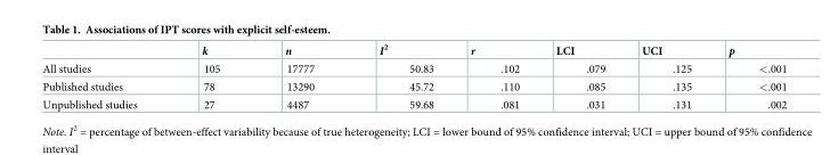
<table><thead><tr><td></td><td>k</td><td>n</td><td>I<sup>2</sup></td><td>r</td><td>LCI</td><td>UCI</td><td>p</td></tr></thead><tbody><tr><td>All studies</td><td>105</td><td>17777</td><td>50.83</td><td>.102</td><td>.079</td><td>.125</td><td>&lt;.001</td></tr><tr><td>Published studies</td><td>78</td><td>13290</td><td>45.72</td><td>.110</td><td>.085</td><td>.135</td><td>&lt;.001</td></tr><tr><td>Unpublished studies</td><td>27</td><td>4487</td><td>59.68</td><td>.081</td><td>.031</td><td>.131</td><td>.002</td></tr></tbody></table>